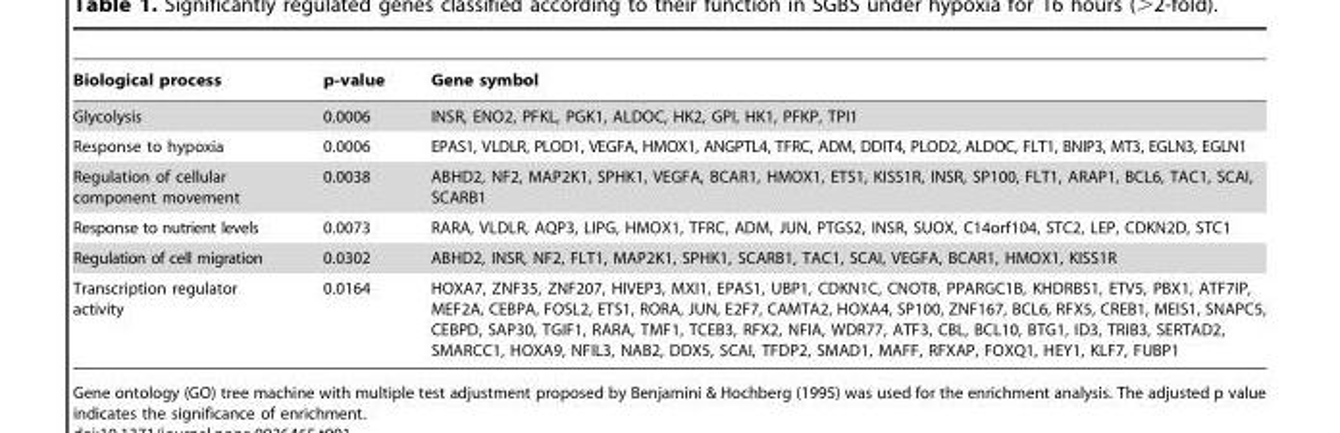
<table><thead><tr><td>Biological process</td><td>p-value</td><td>Gene symbol</td></tr></thead><tbody><tr><td>Glycolysis</td><td>0.0006</td><td>INSR, ENO2, PFKL, PGK1, ALDOC, HK2, GPI, HK1, PFKP, TPI1</td></tr><tr><td>Response to hypoxia</td><td>0.0006</td><td>EPAS1, VLDLR, PLOD1, VEGFA, HMOX1, ANGPTL4, TFRC, ADM, DDIT4, PLOD2, ALDOC, FLT1, BNIP3, MT3, EGLN3, EGLN1</td></tr><tr><td>Regulation of cellular component movement</td><td>0.0038</td><td>ABHD2, NF2, MAP2K1, SPHK1, VEGFA, BCAR1, HMOX1, ETS1, KISS1R, INSR, SP100, FLT1, ARAP1, BCL6, TAC1, SCAI, SCARB1</td></tr><tr><td>Response to nutrient levels</td><td>0.0073</td><td>RARA, VLDLR, AQP3, LIPG, HMOX1, TFRC, ADM, JUN, PTGS2, INSR, SUOX, C14orf104, STC2, LEP, CDKN2D, STC1</td></tr><tr><td>Regulation of cell migration</td><td>0.0302</td><td>ABHD2, INSR, NF2, FLT1, MAP2K1, SPHK1, SCARB1, TAC1, SCAI, VEGFA, BCAR1, HMOX1, KISS1R</td></tr><tr><td>Transcription regulator activity</td><td>0.0164</td><td>HOXA7, ZNF35, ZNF207, HIVEP3, MXI1, EPAS1, UBP1, CDKN1C, CNOT8, PPARGC1B, KHDRBS1, ETV5, PBX1, ATF7IP, MEF2A, CEBPA, FOSL2, ETS1, RORA, JUN, E2F7, CAMTA2, HOXA4, SP100, ZNF167, BCL6, RFX5, CREB1, MEIS1, SNAPC5, CEBPD, SAP30, TGIF1, RARA, TMF1, TCEB3, RFX2, NFIA, WDR77, ATF3, CBL, BCL10, BTG1, ID3, TRIB3, SERTAD2, SMARCC1, HOXA9, NFIL3, NAB2, DDX5, SCAI, TFDP2, SMAD1, MAFF, RFXAP, FOXQ1, HEY1, KLF7, FUBP1</td></tr></tbody></table>